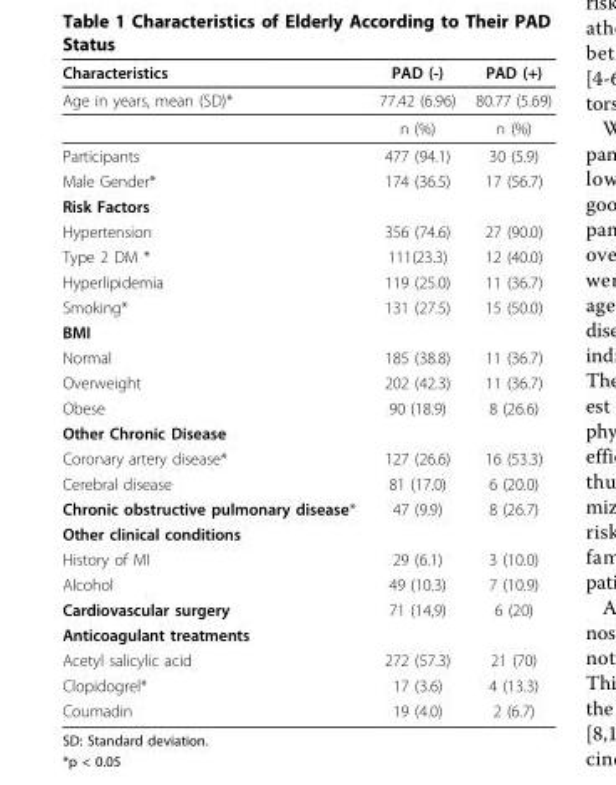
<table><thead><tr><td>Characteristics</td><td>PAD (-)</td><td>PAD (+)</td></tr></thead><tbody><tr><td rowspan="2">Age in years, mean (SD)*</td><td>77.42 (6.96)</td><td>80.77 (5.69)</td></tr><tr><td>n (%)</td><td>n (%)</td></tr><tr><td>Participants</td><td>477 (94.1)</td><td>30 (5.9)</td></tr><tr><td>Male Gender*</td><td>174 (36.5)</td><td>17 (56.7)</td></tr><tr><td colspan="3">Risk Factors</td></tr><tr><td>Hypertension</td><td>356 (74.6)</td><td>27 (90.0)</td></tr><tr><td>Type 2 DM *</td><td>111(23.3)</td><td>12 (40.0)</td></tr><tr><td>Hyperlipidemia</td><td>119 (25.0)</td><td>11 (36.7)</td></tr><tr><td>Smoking*</td><td>131 (27.5)</td><td>15 (50.0)</td></tr><tr><td colspan="3">BMI</td></tr><tr><td>Normal</td><td>185 (38.8)</td><td>11 (36.7)</td></tr><tr><td>Overweight</td><td>202 (42.3)</td><td>11 (36.7)</td></tr><tr><td>Obese</td><td>90 (18.9)</td><td>8 (26.6)</td></tr><tr><td colspan="3">Other Chronic Disease</td></tr><tr><td>Coronary artery disease*</td><td>127 (26.6)</td><td>16 (53.3)</td></tr><tr><td>Cerebral disease</td><td>81 (17.0)</td><td>6 (20.0)</td></tr><tr><td>Chronic obstructive pulmonary disease*</td><td>47 (9.9)</td><td>8 (26.7)</td></tr><tr><td colspan="3">Other clinical conditions</td></tr><tr><td>History of MI</td><td>29 (6.1)</td><td>3 (10.0)</td></tr><tr><td>Alcohol</td><td>49 (10.3)</td><td>7 (10.9)</td></tr><tr><td>Cardiovascular surgery</td><td>71 (14,9)</td><td>6 (20)</td></tr><tr><td colspan="3">Anticoagulant treatments</td></tr><tr><td>Acetyl salicylic acid</td><td>272 (57.3)</td><td>21 (70)</td></tr><tr><td>Clopidogrel*</td><td>17 (3.6)</td><td>4 (13.3)</td></tr><tr><td>Coumadin</td><td>19 (4.0)</td><td>2 (6.7)</td></tr></tbody></table>